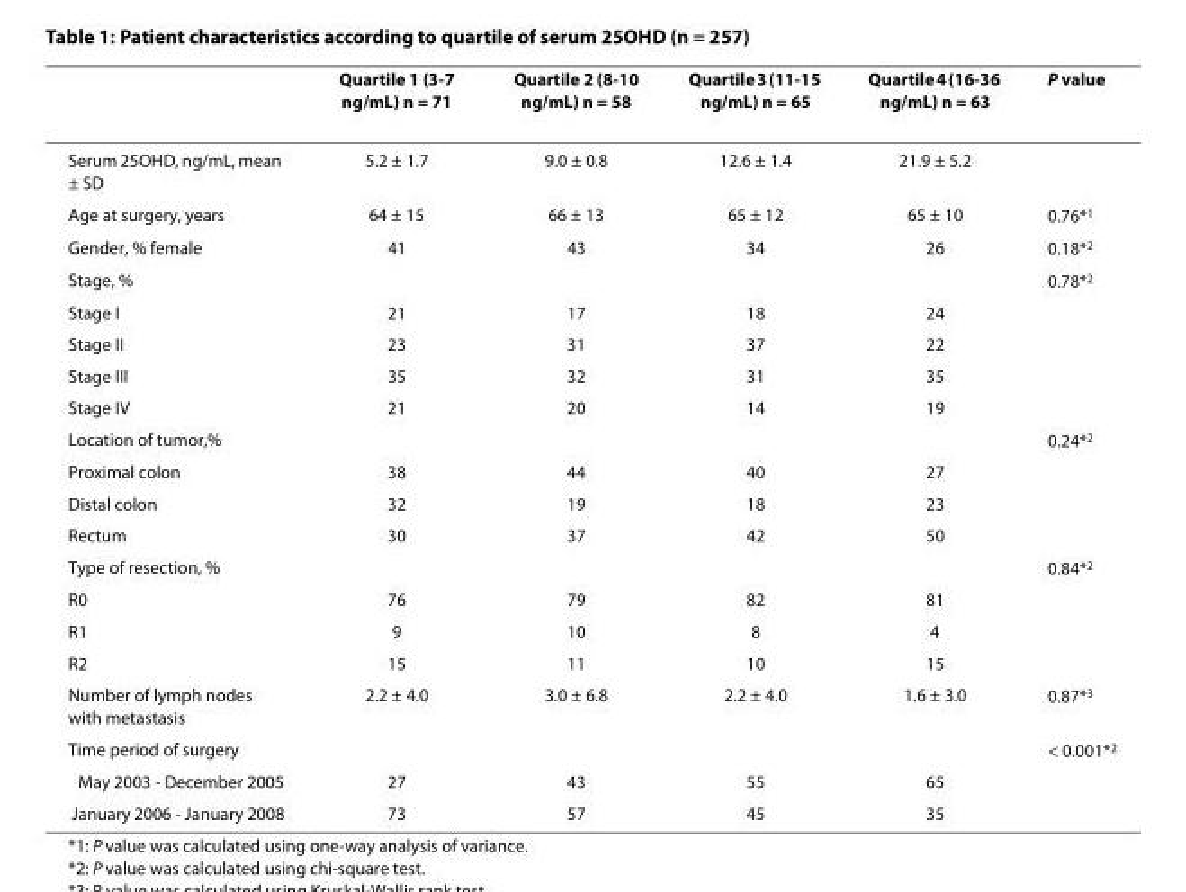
<table><thead><tr><td></td><td>Quartile 1 (3-7 ng/mL) n = 71</td><td>Quartile 2 (8-10 ng/mL) n = 58</td><td>Quartile 3 (11-15 ng/mL) n = 65</td><td>Quartile 4 (16-36 ng/mL) n = 63</td><td>P value</td></tr></thead><tbody><tr><td>Serum 25OHD, ng/mL, mean ± SD</td><td>5.2 ± 1.7</td><td>9.0 ± 0.8</td><td>12.6 ± 1.4</td><td>21.9 ± 5.2</td><td></td></tr><tr><td>Age at surgery, years</td><td>64 ± 15</td><td>66 ± 13</td><td>65 ± 12</td><td>65 ± 10</td><td>0.76*<sup>1</sup></td></tr><tr><td>Gender, % female</td><td>41</td><td>43</td><td>34</td><td>26</td><td>0.18*<sup>2</sup></td></tr><tr><td>Stage, %</td><td></td><td></td><td></td><td></td><td>0.78*<sup>2</sup></td></tr><tr><td>Stage I</td><td>21</td><td>17</td><td>18</td><td>24</td><td></td></tr><tr><td>Stage II</td><td>23</td><td>31</td><td>37</td><td>22</td><td></td></tr><tr><td>Stage III</td><td>35</td><td>32</td><td>31</td><td>35</td><td></td></tr><tr><td>Stage IV</td><td>21</td><td>20</td><td>14</td><td>19</td><td></td></tr><tr><td>Location of tumor,%</td><td></td><td></td><td></td><td></td><td>0.24*<sup>2</sup></td></tr><tr><td>Proximal colon</td><td>38</td><td>44</td><td>40</td><td>27</td><td></td></tr><tr><td>Distal colon</td><td>32</td><td>19</td><td>18</td><td>23</td><td></td></tr><tr><td>Rectum</td><td>30</td><td>37</td><td>42</td><td>50</td><td></td></tr><tr><td>Type of resection, %</td><td></td><td></td><td></td><td></td><td>0.84*<sup>2</sup></td></tr><tr><td>R0</td><td>76</td><td>79</td><td>82</td><td>81</td><td></td></tr><tr><td>R1</td><td>9</td><td>10</td><td>8</td><td>4</td><td></td></tr><tr><td>R2</td><td>15</td><td>11</td><td>10</td><td>15</td><td></td></tr><tr><td>Number of lymph nodes with metastasis</td><td>2.2 ± 4.0</td><td>3.0 ± 6.8</td><td>2.2 ± 4.0</td><td>1.6 ± 3.0</td><td>0.87*<sup>3</sup></td></tr><tr><td>Time period of surgery</td><td></td><td></td><td></td><td></td><td>&lt; 0.001*<sup>2</sup></td></tr><tr><td>May 2003 - December 2005</td><td>27</td><td>43</td><td>55</td><td>65</td><td></td></tr><tr><td>January 2006 - January 2008</td><td>73</td><td>57</td><td>45</td><td>35</td><td></td></tr></tbody></table>